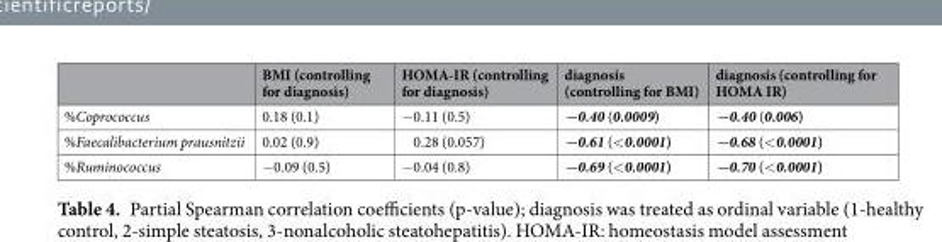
<table><thead><tr><td></td><td>BMI (controlling for diagnosis)</td><td>HOMA-IR (controlling for diagnosis)</td><td>diagnosis (controlling for BMI)</td><td>diagnosis (controlling for HOMA IR)</td></tr></thead><tbody><tr><td>%Coprococcus</td><td>0.18 (0.1)</td><td>−0.11 (0.5)</td><td>−0.40 (0.0009)</td><td>−0.40 (0.006)</td></tr><tr><td>%Faecalibacterium prausnitzii</td><td>0.02 (0.9)</td><td>0.28 (0.057)</td><td>−0.61 (&lt;0.0001)</td><td>−0.68 (&lt;0.0001)</td></tr><tr><td>%Ruminococcus</td><td>−0.09 (0.5)</td><td>−0.04 (0.8)</td><td>−0.69 (&lt;0.0001)</td><td>−0.70 (&lt;0.0001)</td></tr></tbody></table>